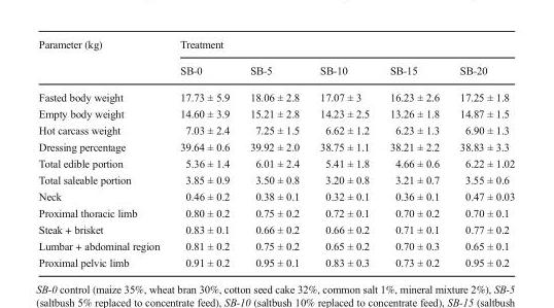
<table><thead><tr><td rowspan="2">Parameter (kg)</td><td colspan="5">Treatment</td></tr><tr><td>SB-0</td><td>SB-5</td><td>SB-10</td><td>SB-15</td><td>SB-20</td></tr></thead><tbody><tr><td>Fasted body weight</td><td>17.73 ± 5.9</td><td>18.06 ± 2.8</td><td>17.07 ± 3</td><td>16.23 ± 2.6</td><td>17.25 ± 1.8</td></tr><tr><td>Empty body weight</td><td>14.60 ± 3.9</td><td>15.21 ± 2.8</td><td>14.23 ± 2.5</td><td>13.26 ± 1.8</td><td>14.87 ± 1.5</td></tr><tr><td>Hot carcass weight</td><td>7.03 ± 2.4</td><td>7.25 ± 1.5</td><td>6.62 ± 1.2</td><td>6.23 ± 1.3</td><td>6.90 ± 1.3</td></tr><tr><td>Dressing percentage</td><td>39.64 ± 0.6</td><td>39.92 ± 2.0</td><td>38.75 ± 1.1</td><td>38.21 ± 2.2</td><td>38.83 ± 3.3</td></tr><tr><td>Total edible portion</td><td>5.36 ± 1.4</td><td>6.01 ± 2.4</td><td>5.41 ± 1.8</td><td>4.66 ± 0.6</td><td>6.22 ± 1.02</td></tr><tr><td>Total saleable portion</td><td>3.85 ± 0.9</td><td>3.50 ± 0.8</td><td>3.20 ± 0.8</td><td>3.21 ± 0.7</td><td>3.55 ± 0.6</td></tr><tr><td>Neck</td><td>0.46 ± 0.2</td><td>0.38 ± 0.1</td><td>0.32 ± 0.1</td><td>0.36 ± 0.1</td><td>0.47 ± 0.03</td></tr><tr><td>Proximal thoracic limb</td><td>0.80 ± 0.2</td><td>0.75 ± 0.2</td><td>0.72 ± 0.1</td><td>0.70 ± 0.2</td><td>0.70 ± 0.1</td></tr><tr><td>Steak + brisket</td><td>0.83 ± 0.1</td><td>0.66 ± 0.2</td><td>0.66 ± 0.2</td><td>0.71 ± 0.1</td><td>0.77 ± 0.2</td></tr><tr><td>Lumbar + abdominal region</td><td>0.81 ± 0.2</td><td>0.75 ± 0.2</td><td>0.65 ± 0.2</td><td>0.70 ± 0.3</td><td>0.65 ± 0.1</td></tr><tr><td>Proximal pelvic limb</td><td>0.91 ± 0.2</td><td>0.95 ± 0.1</td><td>0.83 ± 0.3</td><td>0.73 ± 0.2</td><td>0.95 ± 0.2</td></tr></tbody></table>